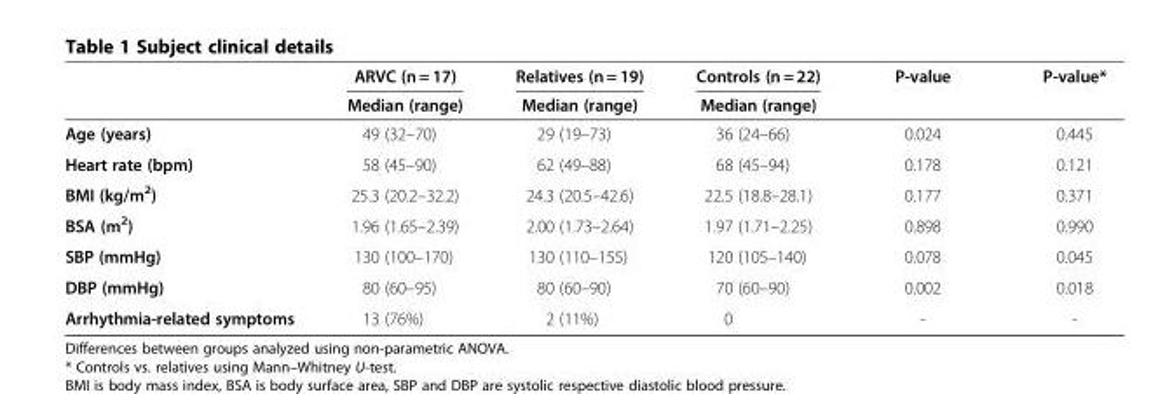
<table><thead><tr><td rowspan="2"></td><td rowspan="2">ARVC (n = 17) Median (range)</td><td rowspan="2">Relatives (n = 19) Median (range)</td><td rowspan="2">Controls (n = 22) Median (range)</td><td rowspan="2">P-value</td><td rowspan="2">P-value*</td></tr><tr></tr></thead><tbody><tr><td>Age (years)</td><td>49 (32–70)</td><td>29 (19–73)</td><td>36 (24–66)</td><td>0.024</td><td>0.445</td></tr><tr><td>Heart rate (bpm)</td><td>58 (45–90)</td><td>62 (49–88)</td><td>68 (45–94)</td><td>0.178</td><td>0.121</td></tr><tr><td>BMI (kg/m<sup>2</sup>)</td><td>25.3 (20.2–32.2)</td><td>24.3 (20.5–42.6)</td><td>22.5 (18.8–28.1)</td><td>0.177</td><td>0.371</td></tr><tr><td>BSA (m<sup>2</sup>)</td><td>1.96 (1.65–2.39)</td><td>2.00 (1.73–2.64)</td><td>1.97 (1.71–2.25)</td><td>0.898</td><td>0.990</td></tr><tr><td>SBP (mmHg)</td><td>130 (100–170)</td><td>130 (110–155)</td><td>120 (105–140)</td><td>0.078</td><td>0.045</td></tr><tr><td>DBP (mmHg)</td><td>80 (60–95)</td><td>80 (60–90)</td><td>70 (60–90)</td><td>0.002</td><td>0.018</td></tr><tr><td>Arrhythmia-related symptoms</td><td>13 (76%)</td><td>2 (11%)</td><td>0</td><td>-</td><td>-</td></tr></tbody></table>